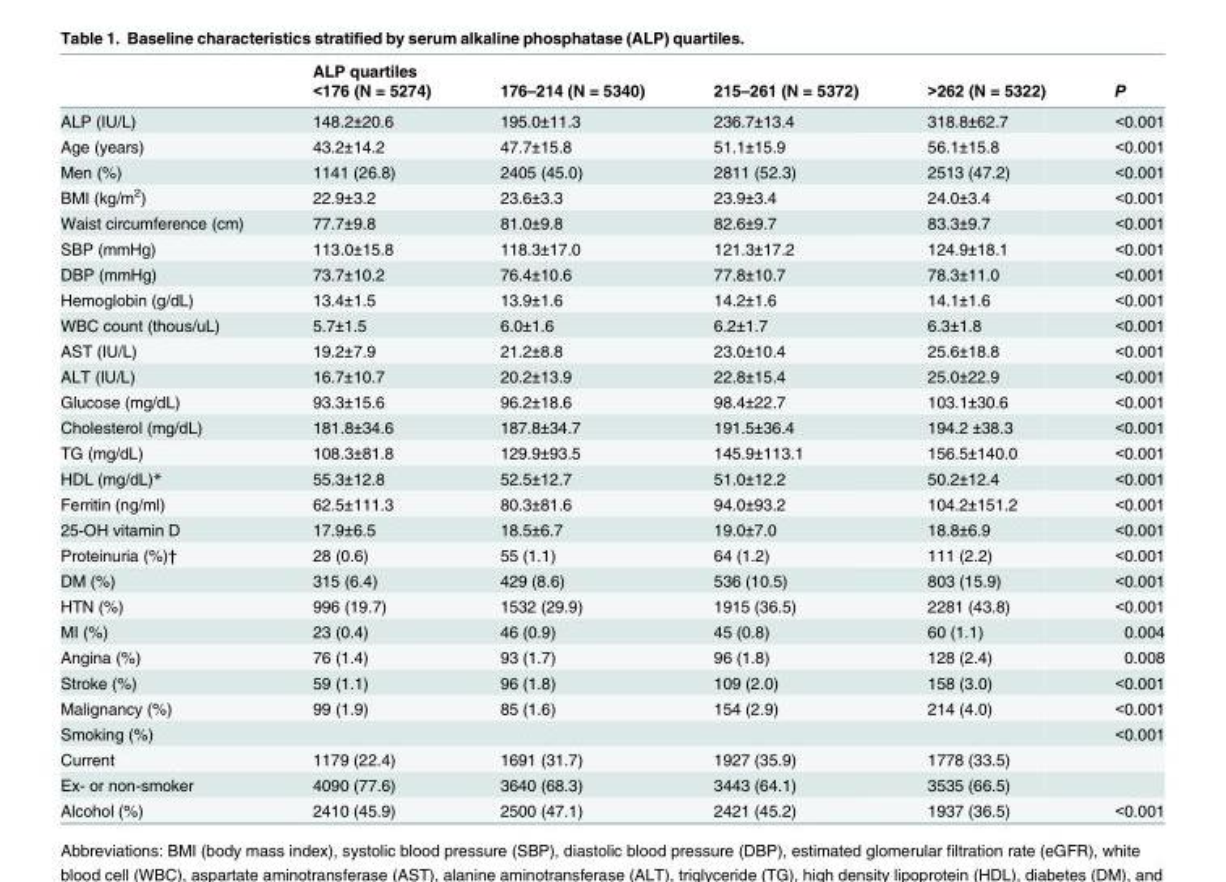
<table><thead><tr><td rowspan="2"></td><td rowspan="2">ALP quartiles &lt;176 (N = 5274)</td><td rowspan="2">176–214 (N = 5340)</td><td rowspan="2">215–261 (N = 5372)</td><td rowspan="2">&gt;262 (N = 5322)</td><td rowspan="2">P</td></tr><tr></tr></thead><tbody><tr><td>ALP (IU/L)</td><td>148.2±20.6</td><td>195.0±11.3</td><td>236.7±13.4</td><td>318.8±62.7</td><td>&lt;0.001</td></tr><tr><td>Age (years)</td><td>43.2±14.2</td><td>47.7±15.8</td><td>51.1±15.9</td><td>56.1±15.8</td><td>&lt;0.001</td></tr><tr><td>Men (%)</td><td>1141 (26.8)</td><td>2405 (45.0)</td><td>2811 (52.3)</td><td>2513 (47.2)</td><td>&lt;0.001</td></tr><tr><td>BMI (kg/m<sup>2</sup>)</td><td>22.9±3.2</td><td>23.6±3.3</td><td>23.9±3.4</td><td>24.0±3.4</td><td>&lt;0.001</td></tr><tr><td>Waist circumference (cm)</td><td>77.7±9.8</td><td>81.0±9.8</td><td>82.6±9.7</td><td>83.3±9.7</td><td>&lt;0.001</td></tr><tr><td>SBP (mmHg)</td><td>113.0±15.8</td><td>118.3±17.0</td><td>121.3±17.2</td><td>124.9±18.1</td><td>&lt;0.001</td></tr><tr><td>DBP (mmHg)</td><td>73.7±10.2</td><td>76.4±10.6</td><td>77.8±10.7</td><td>78.3±11.0</td><td>&lt;0.001</td></tr><tr><td>Hemoglobin (g/dL)</td><td>13.4±1.5</td><td>13.9±1.6</td><td>14.2±1.6</td><td>14.1±1.6</td><td>&lt;0.001</td></tr><tr><td>WBC count (thous/uL)</td><td>5.7±1.5</td><td>6.0±1.6</td><td>6.2±1.7</td><td>6.3±1.8</td><td>&lt;0.001</td></tr><tr><td>AST (IU/L)</td><td>19.2±7.9</td><td>21.2±8.8</td><td>23.0±10.4</td><td>25.6±18.8</td><td>&lt;0.001</td></tr><tr><td>ALT (IU/L)</td><td>16.7±10.7</td><td>20.2±13.9</td><td>22.8±15.4</td><td>25.0±22.9</td><td>&lt;0.001</td></tr><tr><td>Glucose (mg/dL)</td><td>93.3±15.6</td><td>96.2±18.6</td><td>98.4±22.7</td><td>103.1±30.6</td><td>&lt;0.001</td></tr><tr><td>Cholesterol (mg/dL)</td><td>181.8±34.6</td><td>187.8±34.7</td><td>191.5±36.4</td><td>194.2 ±38.3</td><td>&lt;0.001</td></tr><tr><td>TG (mg/dL)</td><td>108.3±81.8</td><td>129.9±93.5</td><td>145.9±113.1</td><td>156.5±140.0</td><td>&lt;0.001</td></tr><tr><td>HDL (mg/dL)*</td><td>55.3±12.8</td><td>52.5±12.7</td><td>51.0±12.2</td><td>50.2±12.4</td><td>&lt;0.001</td></tr><tr><td>Ferritin (ng/ml)</td><td>62.5±111.3</td><td>80.3±81.6</td><td>94.0±93.2</td><td>104.2±151.2</td><td>&lt;0.001</td></tr><tr><td>25-OH vitamin D</td><td>17.9±6.5</td><td>18.5±6.7</td><td>19.0±7.0</td><td>18.8±6.9</td><td>&lt;0.001</td></tr><tr><td>Proteinuria (%)†</td><td>28 (0.6)</td><td>55 (1.1)</td><td>64 (1.2)</td><td>111 (2.2)</td><td>&lt;0.001</td></tr><tr><td>DM (%)</td><td>315 (6.4)</td><td>429 (8.6)</td><td>536 (10.5)</td><td>803 (15.9)</td><td>&lt;0.001</td></tr><tr><td>HTN (%)</td><td>996 (19.7)</td><td>1532 (29.9)</td><td>1915 (36.5)</td><td>2281 (43.8)</td><td>&lt;0.001</td></tr><tr><td>MI (%)</td><td>23 (0.4)</td><td>46 (0.9)</td><td>45 (0.8)</td><td>60 (1.1)</td><td>0.004</td></tr><tr><td>Angina (%)</td><td>76 (1.4)</td><td>93 (1.7)</td><td>96 (1.8)</td><td>128 (2.4)</td><td>0.008</td></tr><tr><td>Stroke (%)</td><td>59 (1.1)</td><td>96 (1.8)</td><td>109 (2.0)</td><td>158 (3.0)</td><td>&lt;0.001</td></tr><tr><td>Malignancy (%)</td><td>99 (1.9)</td><td>85 (1.6)</td><td>154 (2.9)</td><td>214 (4.0)</td><td>&lt;0.001</td></tr><tr><td>Smoking (%)</td><td></td><td></td><td></td><td></td><td>&lt;0.001</td></tr><tr><td>Current</td><td>1179 (22.4)</td><td>1691 (31.7)</td><td>1927 (35.9)</td><td>1778 (33.5)</td><td></td></tr><tr><td>Ex- or non-smoker</td><td>4090 (77.6)</td><td>3640 (68.3)</td><td>3443 (64.1)</td><td>3535 (66.5)</td><td></td></tr><tr><td>Alcohol (%)</td><td>2410 (45.9)</td><td>2500 (47.1)</td><td>2421 (45.2)</td><td>1937 (36.5)</td><td>&lt;0.001</td></tr></tbody></table>